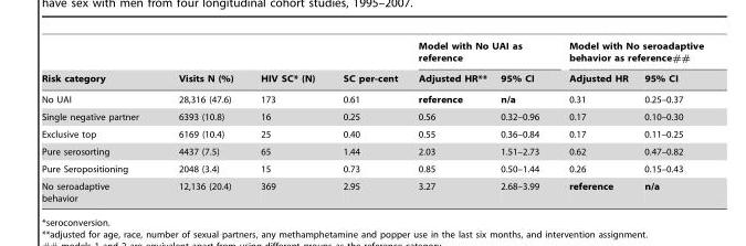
<table><thead><tr><td rowspan="2">Risk category</td><td rowspan="2">Visits N (%)</td><td rowspan="2">HIV SC* (N)</td><td rowspan="2">SC per-cent</td><td colspan="2">Model with No UAI as reference</td><td colspan="2">Model with No seroadaptive behavior as reference##</td></tr><tr><td>Adjusted HR**</td><td>95% CI</td><td>Adjusted HR</td><td>95% CI</td></tr></thead><tbody><tr><td>No UAI</td><td>28,316 (47.6)</td><td>173</td><td>0.61</td><td>reference</td><td>n/a</td><td>0.31</td><td>0.25–0.37</td></tr><tr><td>Single negative partner</td><td>6393 (10.8)</td><td>16</td><td>0.25</td><td>0.56</td><td>0.32–0.96</td><td>0.17</td><td>0.10–0.30</td></tr><tr><td>Exclusive top</td><td>6169 (10.4)</td><td>25</td><td>0.40</td><td>0.55</td><td>0.36–0.84</td><td>0.17</td><td>0.11–0.25</td></tr><tr><td>Pure serosorting</td><td>4437 (7.5)</td><td>65</td><td>1.44</td><td>2.03</td><td>1.51–2.73</td><td>0.62</td><td>0.47–0.82</td></tr><tr><td>Pure Seropositioning</td><td>2048 (3.4)</td><td>15</td><td>0.73</td><td>0.85</td><td>0.50–1.44</td><td>0.26</td><td>0.15–0.43</td></tr><tr><td>No seroadaptive behavior</td><td>12,136 (20.4)</td><td>369</td><td>2.95</td><td>3.27</td><td>2.68–3.99</td><td>reference</td><td>n/a</td></tr></tbody></table>